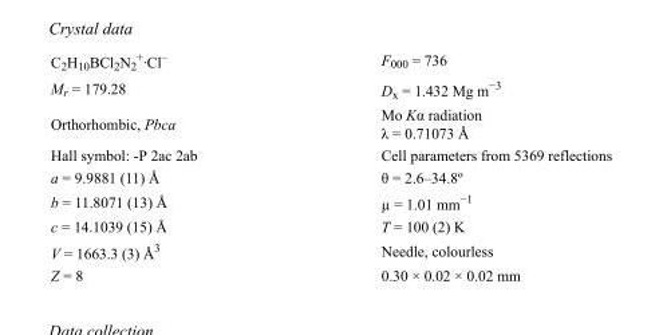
<table><tbody><tr><td>C<sub>2</sub>H<sub>10</sub>BCl<sub>2</sub>N<sub>2</sub> <sup>+</sup>·Cl<sup>–</sup></td><td>F<sub>000</sub> = 736</td></tr><tr><td>M<sub>r</sub> = 179.28</td><td>D<sub>x</sub> = 1.432 Mg m<sup>−3</sup></td></tr><tr><td>Orthorhombic, Pbca</td><td>Mo Kα radiation λ = 0.71073 Å</td></tr><tr><td>Hall symbol: -P 2ac 2ab</td><td>Cell parameters from 5369 reflections</td></tr><tr><td>a = 9.9881 (11) Å</td><td>θ = 2.6–34.8º</td></tr><tr><td>b = 11.8071 (13) Å</td><td>µ = 1.01 mm<sup>−1</sup></td></tr><tr><td>c = 14.1039 (15) Å</td><td>T = 100 (2) K</td></tr><tr><td>V = 1663.3 (3) Å<sup>3</sup></td><td>Needle, colourless</td></tr><tr><td>Z = 8</td><td>0.30 × 0.02 × 0.02 mm</td></tr></tbody></table>